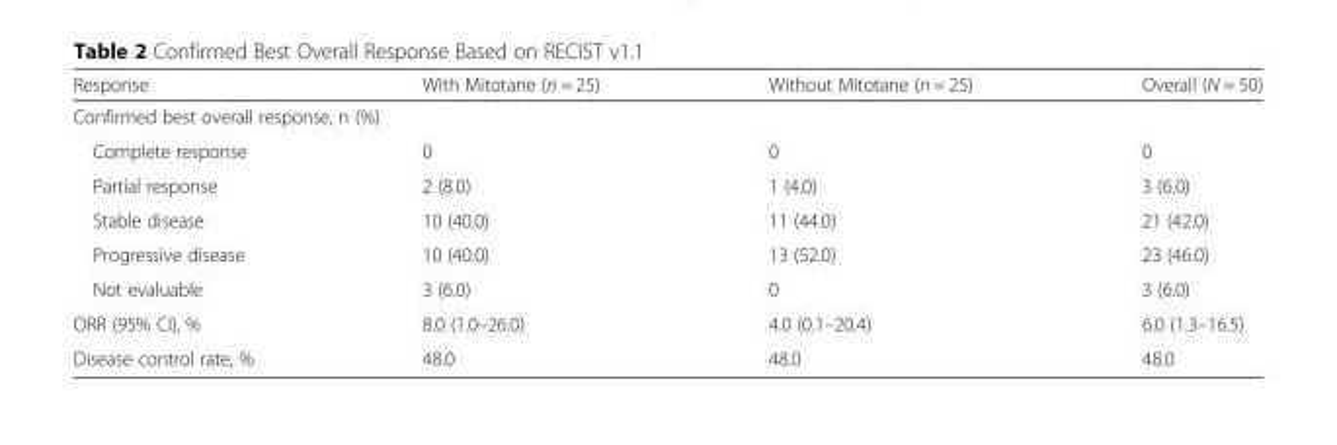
<table><thead><tr><td>Response</td><td>With Mitotane (n = 25)</td><td>Without Mitotane (n = 25)</td><td>Overall (N = 50)</td></tr></thead><tbody><tr><td colspan="4">Confirmed best overall response, n (%)</td></tr><tr><td>Complete response</td><td>0</td><td>0</td><td>0</td></tr><tr><td>Partial response</td><td>2 (8.0)</td><td>1 (4.0)</td><td>3 (6.0)</td></tr><tr><td>Stable disease</td><td>10 (40.0)</td><td>11 (44.0)</td><td>21 (42.0)</td></tr><tr><td>Progressive disease</td><td>10 (40.0)</td><td>13 (52.0)</td><td>23 (46.0)</td></tr><tr><td>Not evaluable</td><td>3 (6.0)</td><td>0</td><td>3 (6.0)</td></tr><tr><td>ORR (95% CI), %</td><td>8.0 (1.0–26.0)</td><td>4.0 (0.1–20.4)</td><td>6.0 (1.3–16.5)</td></tr><tr><td>Disease control rate, %</td><td>48.0</td><td>48.0</td><td>48.0</td></tr></tbody></table>